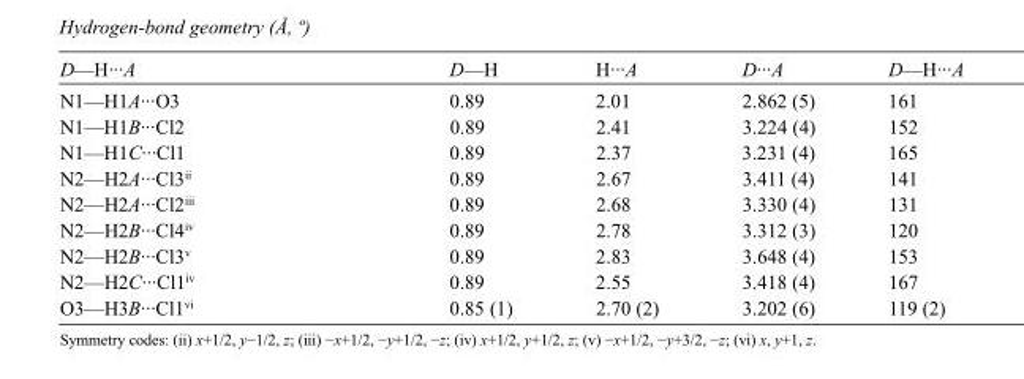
<table><tbody><tr><td>D—H···A</td><td>D—H</td><td>H···A</td><td>D···A</td><td>D—H···A</td></tr><tr><td>N1—H1A···O3</td><td>0.89</td><td>2.01</td><td>2.862 (5)</td><td>161</td></tr><tr><td>N1—H1B···Cl2</td><td>0.89</td><td>2.41</td><td>3.224 (4)</td><td>152</td></tr><tr><td>N1—H1C···Cl1</td><td>0.89</td><td>2.37</td><td>3.231 (4)</td><td>165</td></tr><tr><td>N2—H2A···Cl3<sup>ii</sup></td><td>0.89</td><td>2.67</td><td>3.411 (4)</td><td>141</td></tr><tr><td>N2—H2A···Cl2<sup>iii</sup></td><td>0.89</td><td>2.68</td><td>3.330 (4)</td><td>131</td></tr><tr><td>N2—H2B···Cl4<sup>iv</sup></td><td>0.89</td><td>2.78</td><td>3.312 (3)</td><td>120</td></tr><tr><td>N2—H2B···Cl3<sup>v</sup></td><td>0.89</td><td>2.83</td><td>3.648 (4)</td><td>153</td></tr><tr><td>N2—H2C···Cl1<sup>iv</sup></td><td>0.89</td><td>2.55</td><td>3.418 (4)</td><td>167</td></tr><tr><td>O3—H3B···Cl1<sup>vi</sup></td><td>0.85 (1)</td><td>2.70 (2)</td><td>3.202 (6)</td><td>119 (2)</td></tr></tbody></table>